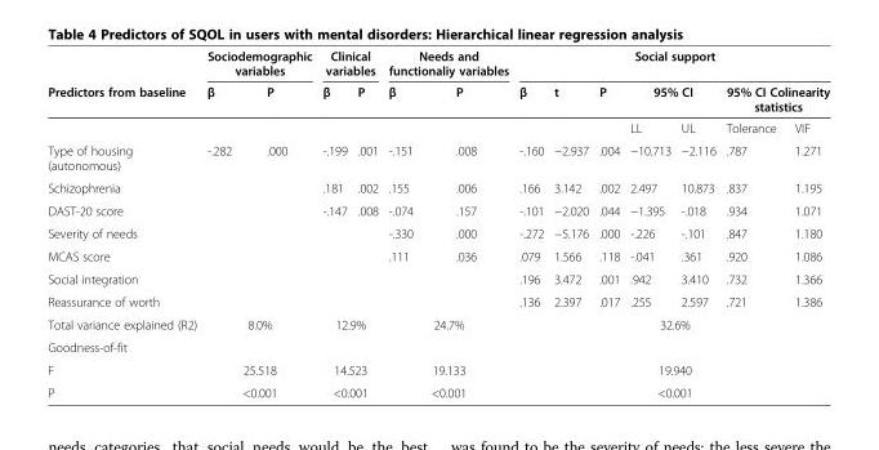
<table><thead><tr><td rowspan="3">Predictors from baseline</td><td colspan="2">Sociodemographic variables</td><td colspan="2">Clinical variables</td><td colspan="2">Needs and functionaliy variables</td><td colspan="7">Social support</td></tr><tr><td rowspan="2">β</td><td rowspan="2">P</td><td rowspan="2">β</td><td rowspan="2">P</td><td rowspan="2">β</td><td rowspan="2">P</td><td rowspan="2">β</td><td rowspan="2">t</td><td rowspan="2">P</td><td colspan="2">95% CI</td><td colspan="2">95% CI Colinearity statistics</td></tr><tr><td>LL</td><td>UL</td><td>Tolerance</td><td>VIF</td></tr></thead><tbody><tr><td>Type of housing (autonomous)</td><td>-.282</td><td>.000</td><td>-.199</td><td>.001</td><td>-.151</td><td>.008</td><td>-.160</td><td>−2.937</td><td>.004</td><td>−10.713</td><td>−2.116</td><td>.787</td><td>1.271</td></tr><tr><td>Schizophrenia</td><td></td><td></td><td>.181</td><td>.002</td><td>.155</td><td>.006</td><td>.166</td><td>3.142</td><td>.002</td><td>2.497</td><td>10.873</td><td>.837</td><td>1.195</td></tr><tr><td>DAST-20 score</td><td></td><td></td><td>-.147</td><td>.008</td><td>-.074</td><td>.157</td><td>-.101</td><td>−2.020</td><td>.044</td><td>−1.395</td><td>-.018</td><td>.934</td><td>1.071</td></tr><tr><td>Severity of needs</td><td></td><td></td><td></td><td></td><td>-.330</td><td>.000</td><td>-.272</td><td>−5.176</td><td>.000</td><td>-.226</td><td>-.101</td><td>.847</td><td>1.180</td></tr><tr><td>MCAS score</td><td></td><td></td><td></td><td></td><td>.111</td><td>.036</td><td>.079</td><td>1.566</td><td>.118</td><td>-.041</td><td>.361</td><td>.920</td><td>1.086</td></tr><tr><td>Social integration</td><td></td><td></td><td></td><td></td><td></td><td></td><td>.196</td><td>3.472</td><td>.001</td><td>.942</td><td>3.410</td><td>.732</td><td>1.366</td></tr><tr><td>Reassurance of worth</td><td></td><td></td><td></td><td></td><td></td><td></td><td>.136</td><td>2.397</td><td>.017</td><td>.255</td><td>2.597</td><td>.721</td><td>1.386</td></tr><tr><td>Total variance explained (R2)</td><td colspan="2">8.0%</td><td colspan="2">12.9%</td><td colspan="2">24.7%</td><td colspan="7">32.6%</td></tr><tr><td colspan="14">Goodness-of-fit</td></tr><tr><td>F</td><td colspan="2">25.518</td><td colspan="2">14.523</td><td colspan="2">19.133</td><td colspan="7">19.940</td></tr><tr><td>P</td><td colspan="2">&lt;0.001</td><td colspan="2">&lt;0.001</td><td colspan="2">&lt;0.001</td><td colspan="7">&lt;0.001</td></tr></tbody></table>